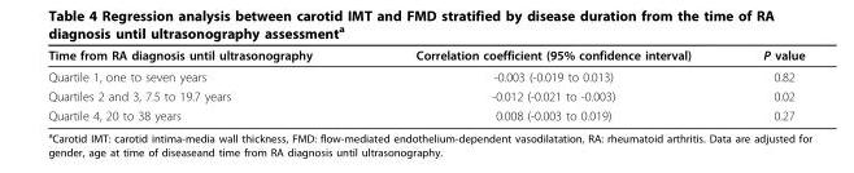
<table><thead><tr><td>Time from RA diagnosis until ultrasonography</td><td>Correlation coefficient (95% confidence interval)</td><td>P value</td></tr></thead><tbody><tr><td>Quartile 1, one to seven years</td><td>-0.003 (-0.019 to 0.013)</td><td>0.82</td></tr><tr><td>Quartiles 2 and 3, 7.5 to 19.7 years</td><td>-0.012 (-0.021 to -0.003)</td><td>0.02</td></tr><tr><td>Quartile 4, 20 to 38 years</td><td>0.008 (-0.003 to 0.019)</td><td>0.27</td></tr></tbody></table>